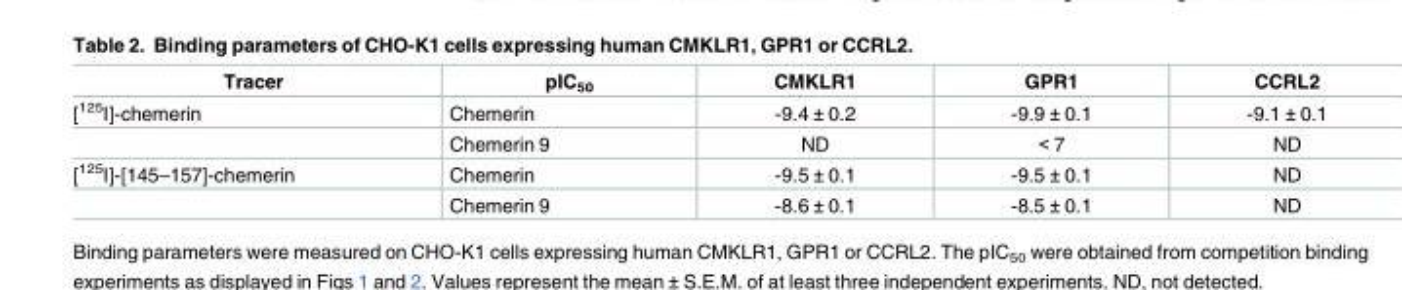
<table><thead><tr><td>Tracer</td><td>pIC<sub>50</sub></td><td>CMKLR1</td><td>GPR1</td><td>CCRL2</td></tr></thead><tbody><tr><td rowspan="2">[<sup>125</sup>I]-chemerin</td><td>Chemerin</td><td>-9.4 ± 0.2</td><td>-9.9 ± 0.1</td><td>-9.1 ± 0.1</td></tr><tr><td>Chemerin 9</td><td>ND</td><td>&lt; 7</td><td>ND</td></tr><tr><td rowspan="2">[<sup>125</sup>I]-[145–157]-chemerin</td><td>Chemerin</td><td>-9.5 ± 0.1</td><td>-9.5 ± 0.1</td><td>ND</td></tr><tr><td>Chemerin 9</td><td>-8.6 ± 0.1</td><td>-8.5 ± 0.1</td><td>ND</td></tr></tbody></table>